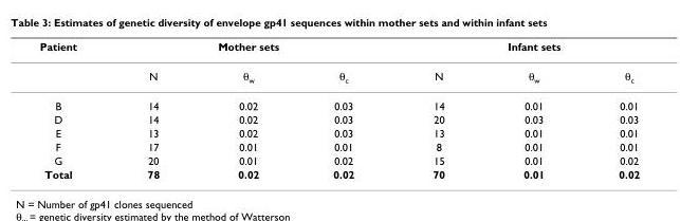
<table><thead><tr><td rowspan="2">Patient</td><td colspan="3">Mother sets</td><td colspan="3">Infant sets</td></tr><tr><td>N</td><td>θ<sub>w</sub></td><td>θ<sub>c</sub></td><td>N</td><td>θ<sub>w</sub></td><td>θ<sub>c</sub></td></tr></thead><tbody><tr><td>B</td><td>14</td><td>0.02</td><td>0.03</td><td>14</td><td>0.01</td><td>0.01</td></tr><tr><td>D</td><td>14</td><td>0.02</td><td>0.03</td><td>20</td><td>0.03</td><td>0.03</td></tr><tr><td>E</td><td>13</td><td>0.02</td><td>0.03</td><td>13</td><td>0.01</td><td>0.01</td></tr><tr><td>F</td><td>17</td><td>0.01</td><td>0.01</td><td>8</td><td>0.01</td><td>0.01</td></tr><tr><td>G</td><td>20</td><td>0.01</td><td>0.02</td><td>15</td><td>0.01</td><td>0.02</td></tr><tr><td>Total</td><td>78</td><td>0.02</td><td>0.02</td><td>70</td><td>0.01</td><td>0.02</td></tr></tbody></table>